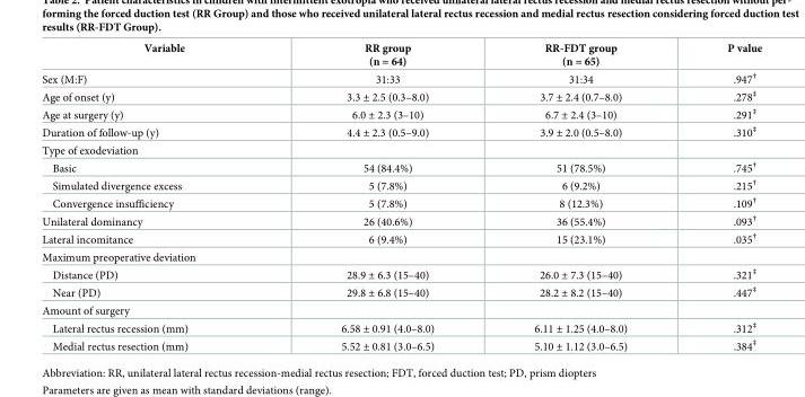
<table><thead><tr><td>Variable</td><td>RR group (n = 64)</td><td>RR-FDT group (n = 65)</td><td>P value</td></tr></thead><tbody><tr><td>Sex (M:F)</td><td>31:33</td><td>31:34</td><td>.947<sup>†</sup></td></tr><tr><td>Age of onset (y)</td><td>3.3 ± 2.5 (0.3–8.0)</td><td>3.7 ± 2.4 (0.7–8.0)</td><td>.278<sup>‡</sup></td></tr><tr><td>Age at surgery (y)</td><td>6.0 ± 2.3 (3–10)</td><td>6.7 ± 2.4 (3–10)</td><td>.291<sup>‡</sup></td></tr><tr><td>Duration of follow-up (y)</td><td>4.4 ± 2.3 (0.5–9.0)</td><td>3.9 ± 2.0 (0.5–8.0)</td><td>.310<sup>‡</sup></td></tr><tr><td colspan="4">Type of exodeviation</td></tr><tr><td>Basic</td><td>54 (84.4%)</td><td>51 (78.5%)</td><td>.745<sup>†</sup></td></tr><tr><td>Simulated divergence excess</td><td>5 (7.8%)</td><td>6 (9.2%)</td><td>.215<sup>†</sup></td></tr><tr><td>Convergence insufficiency</td><td>5 (7.8%)</td><td>8 (12.3%)</td><td>.109<sup>†</sup></td></tr><tr><td>Unilateral dominancy</td><td>26 (40.6%)</td><td>36 (55.4%)</td><td>.093<sup>†</sup></td></tr><tr><td>Lateral incomitance</td><td>6 (9.4%)</td><td>15 (23.1%)</td><td>.035<sup>†</sup></td></tr><tr><td colspan="4">Maximum preoperative deviation</td></tr><tr><td>Distance (PD)</td><td>28.9 ± 6.3 (15–40)</td><td>26.0 ± 7.3 (15–40)</td><td>.321<sup>‡</sup></td></tr><tr><td>Near (PD)</td><td>29.8 ± 6.8 (15–40)</td><td>28.2 ± 8.2 (15–40)</td><td>.447<sup>‡</sup></td></tr><tr><td colspan="4">Amount of surgery</td></tr><tr><td>Lateral rectus recession (mm)</td><td>6.58 ± 0.91 (4.0–8.0)</td><td>6.11 ± 1.25 (4.0–8.0)</td><td>.312<sup>‡</sup></td></tr><tr><td>Medial rectus resection (mm)</td><td>5.52 ± 0.81 (3.0–6.5)</td><td>5.10 ± 1.12 (3.0–6.5)</td><td>.384<sup>‡</sup></td></tr></tbody></table>